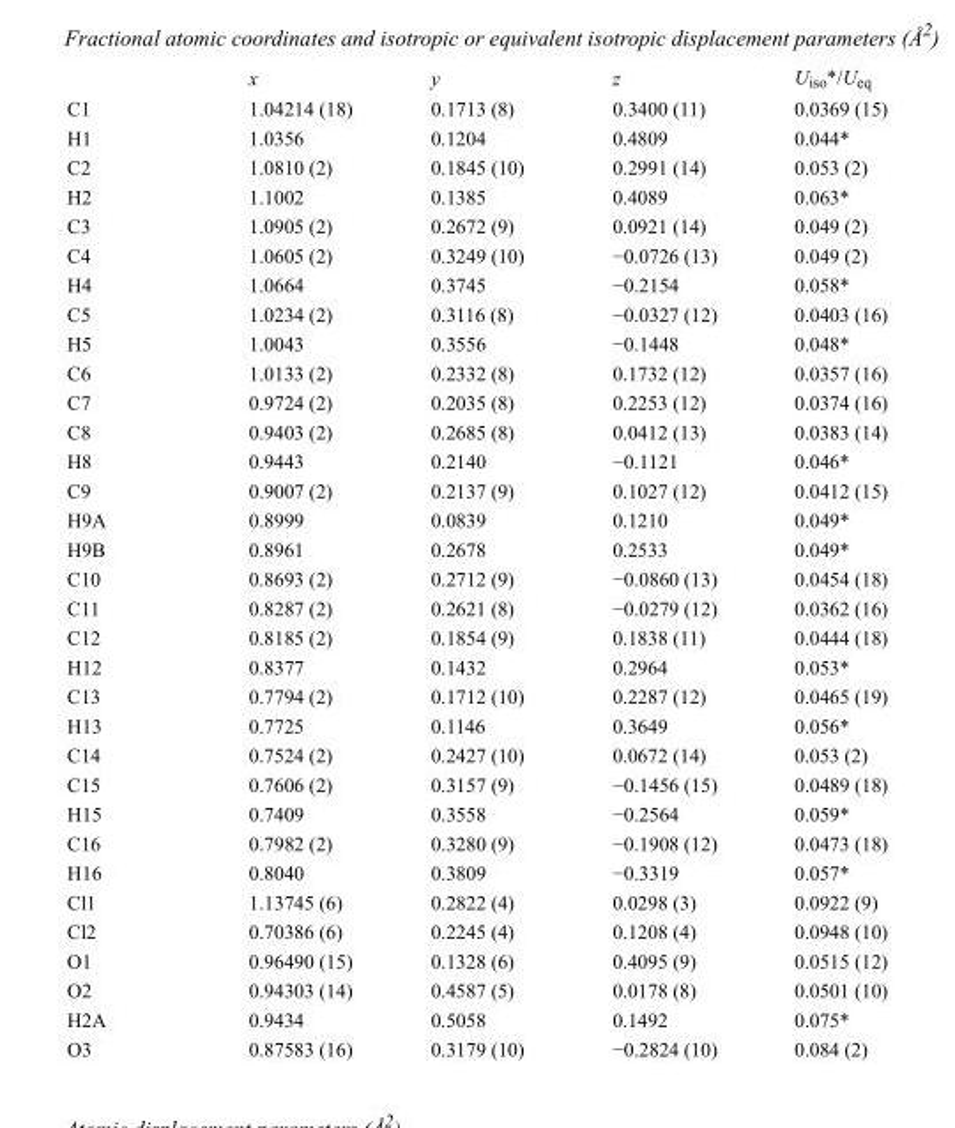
<table><thead><tr><td></td><td>x</td><td>y</td><td>z</td><td>U<sub>iso</sub>*/U<sub>eq</sub></td></tr></thead><tbody><tr><td>C1</td><td>1.04214 (18)</td><td>0.1713 (8)</td><td>0.3400 (11)</td><td>0.0369 (15)</td></tr><tr><td>H1</td><td>1.0356</td><td>0.1204</td><td>0.4809</td><td>0.044*</td></tr><tr><td>C2</td><td>1.0810 (2)</td><td>0.1845 (10)</td><td>0.2991 (14)</td><td>0.053 (2)</td></tr><tr><td>H2</td><td>1.1002</td><td>0.1385</td><td>0.4089</td><td>0.063*</td></tr><tr><td>C3</td><td>1.0905 (2)</td><td>0.2672 (9)</td><td>0.0921 (14)</td><td>0.049 (2)</td></tr><tr><td>C4</td><td>1.0605 (2)</td><td>0.3249 (10)</td><td>−0.0726 (13)</td><td>0.049 (2)</td></tr><tr><td>H4</td><td>1.0664</td><td>0.3745</td><td>−0.2154</td><td>0.058*</td></tr><tr><td>C5</td><td>1.0234 (2)</td><td>0.3116 (8)</td><td>−0.0327 (12)</td><td>0.0403 (16)</td></tr><tr><td>H5</td><td>1.0043</td><td>0.3556</td><td>−0.1448</td><td>0.048*</td></tr><tr><td>C6</td><td>1.0133 (2)</td><td>0.2332 (8)</td><td>0.1732 (12)</td><td>0.0357 (16)</td></tr><tr><td>C7</td><td>0.9724 (2)</td><td>0.2035 (8)</td><td>0.2253 (12)</td><td>0.0374 (16)</td></tr><tr><td>C8</td><td>0.9403 (2)</td><td>0.2685 (8)</td><td>0.0412 (13)</td><td>0.0383 (14)</td></tr><tr><td>H8</td><td>0.9443</td><td>0.2140</td><td>−0.1121</td><td>0.046*</td></tr><tr><td>C9</td><td>0.9007 (2)</td><td>0.2137 (9)</td><td>0.1027 (12)</td><td>0.0412 (15)</td></tr><tr><td>H9A</td><td>0.8999</td><td>0.0839</td><td>0.1210</td><td>0.049*</td></tr><tr><td>H9B</td><td>0.8961</td><td>0.2678</td><td>0.2533</td><td>0.049*</td></tr><tr><td>C10</td><td>0.8693 (2)</td><td>0.2712 (9)</td><td>−0.0860 (13)</td><td>0.0454 (18)</td></tr><tr><td>C11</td><td>0.8287 (2)</td><td>0.2621 (8)</td><td>−0.0279 (12)</td><td>0.0362 (16)</td></tr><tr><td>C12</td><td>0.8185 (2)</td><td>0.1854 (9)</td><td>0.1838 (11)</td><td>0.0444 (18)</td></tr><tr><td>H12</td><td>0.8377</td><td>0.1432</td><td>0.2964</td><td>0.053*</td></tr><tr><td>C13</td><td>0.7794 (2)</td><td>0.1712 (10)</td><td>0.2287 (12)</td><td>0.0465 (19)</td></tr><tr><td>H13</td><td>0.7725</td><td>0.1146</td><td>0.3649</td><td>0.056*</td></tr><tr><td>C14</td><td>0.7524 (2)</td><td>0.2427 (10)</td><td>0.0672 (14)</td><td>0.053 (2)</td></tr><tr><td>C15</td><td>0.7606 (2)</td><td>0.3157 (9)</td><td>−0.1456 (15)</td><td>0.0489 (18)</td></tr><tr><td>H15</td><td>0.7409</td><td>0.3558</td><td>−0.2564</td><td>0.059*</td></tr><tr><td>C16</td><td>0.7982 (2)</td><td>0.3280 (9)</td><td>−0.1908 (12)</td><td>0.0473 (18)</td></tr><tr><td>H16</td><td>0.8040</td><td>0.3809</td><td>−0.3319</td><td>0.057*</td></tr><tr><td>Cl1</td><td>1.13745 (6)</td><td>0.2822 (4)</td><td>0.0298 (3)</td><td>0.0922 (9)</td></tr><tr><td>Cl2</td><td>0.70386 (6)</td><td>0.2245 (4)</td><td>0.1208 (4)</td><td>0.0948 (10)</td></tr><tr><td>O1</td><td>0.96490 (15)</td><td>0.1328 (6)</td><td>0.4095 (9)</td><td>0.0515 (12)</td></tr><tr><td>O2</td><td>0.94303 (14)</td><td>0.4587 (5)</td><td>0.0178 (8)</td><td>0.0501 (10)</td></tr><tr><td>H2A</td><td>0.9434</td><td>0.5058</td><td>0.1492</td><td>0.075*</td></tr><tr><td>O3</td><td>0.87583 (16)</td><td>0.3179 (10)</td><td>−0.2824 (10)</td><td>0.084 (2)</td></tr></tbody></table>